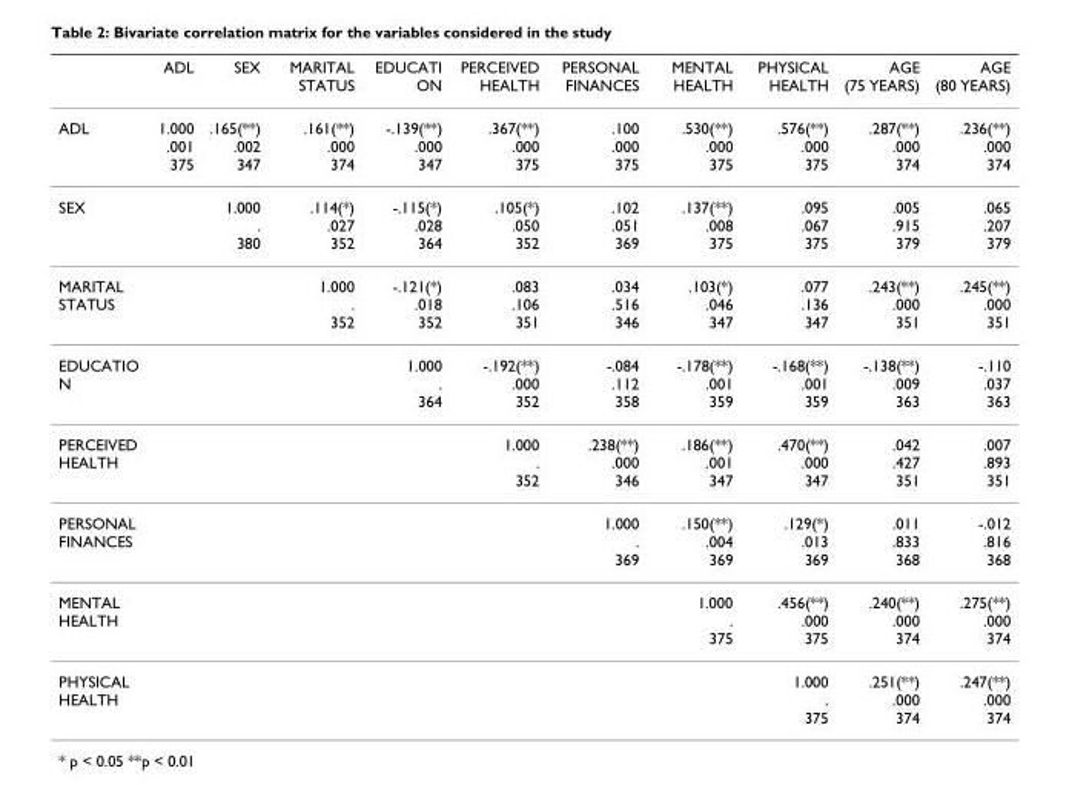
<table><thead><tr><td></td><td>ADL</td><td>SEX</td><td>MARITAL STATUS</td><td>EDUCATI ON</td><td>PERCEIVED HEALTH</td><td>PERSONAL FINANCES</td><td>MENTAL HEALTH</td><td>PHYSICAL HEALTH</td><td>AGE (75 YEARS)</td><td>AGE (80 YEARS)</td></tr></thead><tbody><tr><td>ADL</td><td>1.000 .001 375</td><td>.165(**) .002 347</td><td>.161(**) .000 374</td><td>-.139(**) .000 347</td><td>.367(**) .000 375</td><td>.100 .000 375</td><td>.530(**) .000 375</td><td>.576(**) .000 375</td><td>.287(**) .000 374</td><td>.236(**) .000 374</td></tr><tr><td>SEX</td><td></td><td>1.000 . 380</td><td>.114(*) .027 352</td><td>-.115(*) .028 364</td><td>.105(*) .050 352</td><td>.102 .051 369</td><td>.137(**) .008 375</td><td>.095 .067 375</td><td>.005 .915 379</td><td>.065 .207 379</td></tr><tr><td>MARITAL STATUS</td><td></td><td></td><td>1.000 . 352</td><td>-.121(*) .018 352</td><td>.083 .106 351</td><td>.034 .516 346</td><td>.103(*) .046 347</td><td>.077 .136 347</td><td>.243(**) .000 351</td><td>.245(**) .000 351</td></tr><tr><td>EDUCATIO N</td><td></td><td></td><td></td><td>1.000 . 364</td><td>-.192(**) .000 352</td><td>-.084 .112 358</td><td>-.178(**) .001 359</td><td>-.168(**) .001 359</td><td>-.138(**) .009 363</td><td>-.110 .037 363</td></tr><tr><td>PERCEIVED HEALTH</td><td></td><td></td><td></td><td></td><td>1.000 . 352</td><td>.238(**) .000 346</td><td>.186(**) .001 347</td><td>.470(**) .000 347</td><td>.042 .427 351</td><td>.007 .893 351</td></tr><tr><td>PERSONAL FINANCES</td><td></td><td></td><td></td><td></td><td></td><td>1.000 . 369</td><td>.150(**) .004 369</td><td>.129(*) .013 369</td><td>.011 .833 368</td><td>-.012 .816 368</td></tr><tr><td>MENTAL HEALTH</td><td></td><td></td><td></td><td></td><td></td><td></td><td>1.000 . 375</td><td>.456(**) .000 375</td><td>.240(**) .000 374</td><td>.275(**) .000 374</td></tr><tr><td>PHYSICAL HEALTH</td><td></td><td></td><td></td><td></td><td></td><td></td><td></td><td>1.000 . 375</td><td>.251(**) .000 374</td><td>.247(**) .000 374</td></tr></tbody></table>